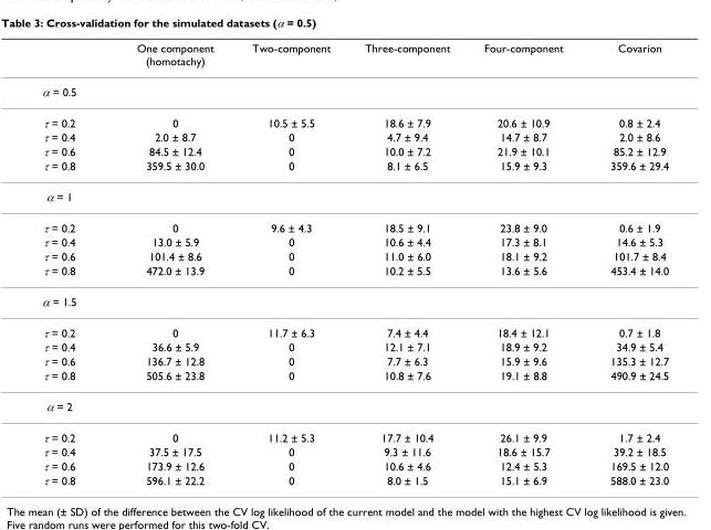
<table><thead><tr><td></td><td>One component (homotachy)</td><td>Two-component</td><td>Three-component</td><td>Four-component</td><td>Covarion</td></tr></thead><tbody><tr><td colspan="6">α = 0.5</td></tr><tr><td>τ = 0.2</td><td>0</td><td>10.5 ± 5.5</td><td>18.6 ± 7.9</td><td>20.6 ± 10.9</td><td>0.8 ± 2.4</td></tr><tr><td>τ = 0.4</td><td>2.0 ± 8.7</td><td>0</td><td>4.7 ± 9.4</td><td>14.7 ± 8.7</td><td>2.0 ± 8.6</td></tr><tr><td>τ = 0.6</td><td>84.5 ± 12.4</td><td>0</td><td>10.0 ± 7.2</td><td>21.9 ± 10.1</td><td>85.2 ± 12.9</td></tr><tr><td>τ = 0.8</td><td>359.5 ± 30.0</td><td>0</td><td>8.1 ± 6.5</td><td>15.9 ± 9.3</td><td>359.6 ± 29.4</td></tr><tr><td colspan="6">α = 1</td></tr><tr><td>τ = 0.2</td><td>0</td><td>9.6 ± 4.3</td><td>18.5 ± 9.1</td><td>23.8 ± 9.0</td><td>0.6 ± 1.9</td></tr><tr><td>τ = 0.4</td><td>13.0 ± 5.9</td><td>0</td><td>10.6 ± 4.4</td><td>17.3 ± 8.1</td><td>14.6 ± 5.3</td></tr><tr><td>τ = 0.6</td><td>101.4 ± 8.6</td><td>0</td><td>11.0 ± 6.0</td><td>18.1 ± 9.2</td><td>101.7 ± 8.4</td></tr><tr><td>τ = 0.8</td><td>472.0 ± 13.9</td><td>0</td><td>10.2 ± 5.5</td><td>13.6 ± 5.6</td><td>453.4 ± 14.0</td></tr><tr><td colspan="6">α = 1.5</td></tr><tr><td>τ = 0.2</td><td>0</td><td>11.7 ± 6.3</td><td>7.4 ± 4.4</td><td>18.4 ± 12.1</td><td>0.7 ± 1.8</td></tr><tr><td>τ = 0.4</td><td>36.6 ± 5.9</td><td>0</td><td>12.1 ± 7.1</td><td>18.9 ± 9.2</td><td>34.9 ± 5.4</td></tr><tr><td>τ = 0.6</td><td>136.7 ± 12.8</td><td>0</td><td>7.7 ± 6.3</td><td>15.9 ± 9.6</td><td>135.3 ± 12.7</td></tr><tr><td>τ = 0.8</td><td>505.6 ± 23.8</td><td>0</td><td>10.8 ± 7.6</td><td>19.1 ± 8.8</td><td>490.9 ± 24.5</td></tr><tr><td colspan="6">α = 2</td></tr><tr><td>τ = 0.2</td><td>0</td><td>11.2 ± 5.3</td><td>17.7 ± 10.4</td><td>26.1 ± 9.9</td><td>1.7 ± 2.4</td></tr><tr><td>τ = 0.4</td><td>37.5 ± 17.5</td><td>0</td><td>9.3 ± 11.6</td><td>18.6 ± 15.7</td><td>39.2 ± 18.5</td></tr><tr><td>τ = 0.6</td><td>173.9 ± 12.6</td><td>0</td><td>10.6 ± 4.6</td><td>12.4 ± 5.3</td><td>169.5 ± 12.0</td></tr><tr><td>τ = 0.8</td><td>596.1 ± 22.2</td><td>0</td><td>8.0 ± 1.5</td><td>15.1 ± 6.9</td><td>588.0 ± 23.0</td></tr></tbody></table>